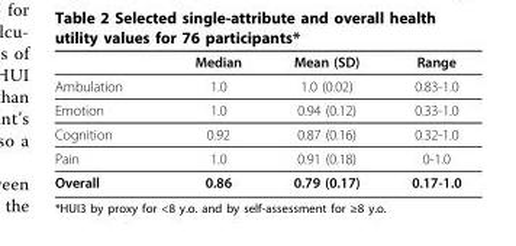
<table><thead><tr><td></td><td>Median</td><td>Mean (SD)</td><td>Range</td></tr></thead><tbody><tr><td>Ambulation</td><td>1.0</td><td>1.0 (0.02)</td><td>0.83-1.0</td></tr><tr><td>Emotion</td><td>1.0</td><td>0.94 (0.12)</td><td>0.33-1.0</td></tr><tr><td>Cognition</td><td>0.92</td><td>0.87 (0.16)</td><td>0.32-1.0</td></tr><tr><td>Pain</td><td>1.0</td><td>0.91 (0.18)</td><td>0-1.0</td></tr><tr><td>Overall</td><td>0.86</td><td>0.79 (0.17)</td><td>0.17-1.0</td></tr></tbody></table>